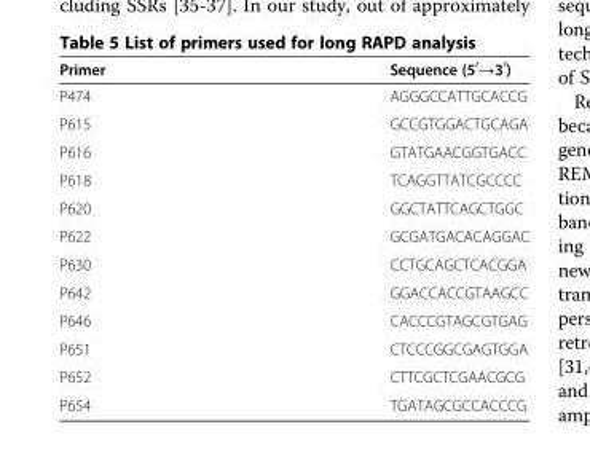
<table><thead><tr><td>Primer</td><td>Sequence (5<sup>′</sup>→3<sup>′</sup>)</td></tr></thead><tbody><tr><td>P474</td><td>AGGGCCATTGCACCG</td></tr><tr><td>P615</td><td>GCCGTGGACTGCAGA</td></tr><tr><td>P616</td><td>GTATGAACGGTGACC</td></tr><tr><td>P618</td><td>TCAGGTTATCGCCCC</td></tr><tr><td>P620</td><td>GGCTATTCAGCTGGC</td></tr><tr><td>P622</td><td>GCGATGACACAGGAC</td></tr><tr><td>P630</td><td>CCTGCAGCTCACGGA</td></tr><tr><td>P642</td><td>GGACCACCGTAAGCC</td></tr><tr><td>P646</td><td>CACCCGTAGCGTGAG</td></tr><tr><td>P651</td><td>CTCCCGGCGAGTGGA</td></tr><tr><td>P652</td><td>CTTCGCTCGAACGCG</td></tr><tr><td>P654</td><td>TGATAGCGCCACCCG</td></tr></tbody></table>